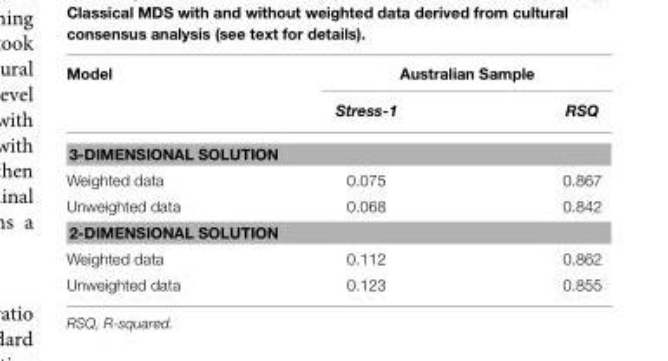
<table><thead><tr><td rowspan="2">Model</td><td colspan="2">Australian Sample</td></tr><tr><td>Stress-1</td><td>RSQ</td></tr></thead><tbody><tr><td colspan="3">3-DIMENSIONAL SOLUTION</td></tr><tr><td>Weighted data</td><td>0.075</td><td>0.867</td></tr><tr><td>Unweighted data</td><td>0.068</td><td>0.842</td></tr><tr><td colspan="3">2-DIMENSIONAL SOLUTION</td></tr><tr><td>Weighted data</td><td>0.112</td><td>0.862</td></tr><tr><td>Unweighted data</td><td>0.123</td><td>0.855</td></tr></tbody></table>